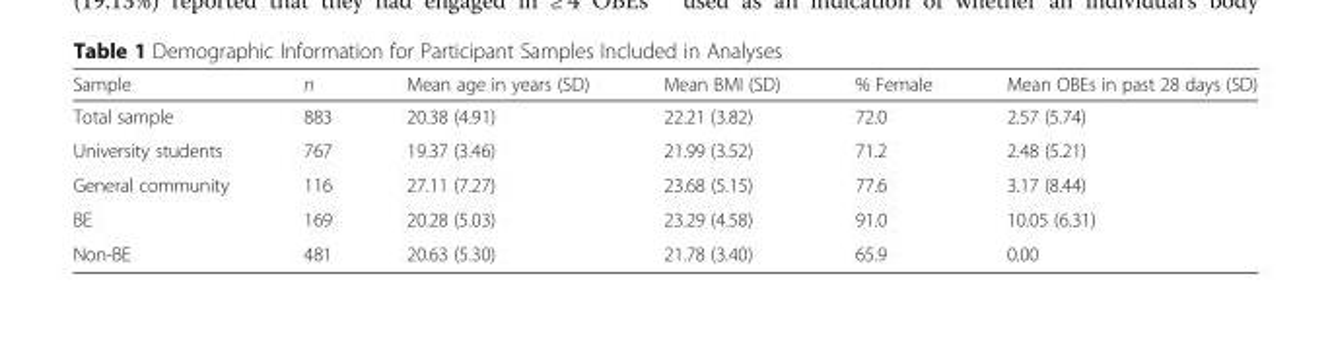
<table><thead><tr><td>Sample</td><td>n</td><td>Mean age in years (SD)</td><td>Mean BMI (SD)</td><td>% Female</td><td>Mean OBEs in past 28 days (SD)</td></tr></thead><tbody><tr><td>Total sample</td><td>883</td><td>20.38 (4.91)</td><td>22.21 (3.82)</td><td>72.0</td><td>2.57 (5.74)</td></tr><tr><td>University students</td><td>767</td><td>19.37 (3.46)</td><td>21.99 (3.52)</td><td>71.2</td><td>2.48 (5.21)</td></tr><tr><td>General community</td><td>116</td><td>27.11 (7.27)</td><td>23.68 (5.15)</td><td>77.6</td><td>3.17 (8.44)</td></tr><tr><td>BE</td><td>169</td><td>20.28 (5.03)</td><td>23.29 (4.58)</td><td>91.0</td><td>10.05 (6.31)</td></tr><tr><td>Non-BE</td><td>481</td><td>20.63 (5.30)</td><td>21.78 (3.40)</td><td>65.9</td><td>0.00</td></tr></tbody></table>